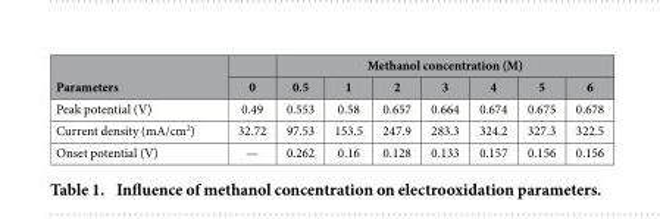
<table><thead><tr><td rowspan="2">Parameters</td><td rowspan="2">0</td><td colspan="7">Methanol concentration (M)</td></tr><tr><td>0.5</td><td>1</td><td>2</td><td>3</td><td>4</td><td>5</td><td>6</td></tr></thead><tbody><tr><td>Peak potential (V)</td><td>0.49</td><td>0.553</td><td>0.58</td><td>0.657</td><td>0.664</td><td>0.674</td><td>0.675</td><td>0.678</td></tr><tr><td>Current density (mA/cm<sup>2</sup>)</td><td>32.72</td><td>97.53</td><td>153.5</td><td>247.9</td><td>283.3</td><td>324.2</td><td>327.3</td><td>322.5</td></tr><tr><td>Onset potential (V)</td><td>—</td><td>0.262</td><td>0.16</td><td>0.128</td><td>0.133</td><td>0.157</td><td>0.156</td><td>0.156</td></tr></tbody></table>